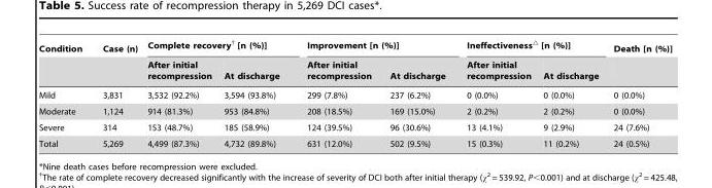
<table><thead><tr><td rowspan="2">Condition</td><td rowspan="2">Case (n)</td><td colspan="2">Complete recovery† [n (%)]</td><td colspan="2">Improvement [n (%)]</td><td colspan="2">Ineffectiveness△ [n (%)]</td><td rowspan="2">Death [n (%)]</td></tr><tr><td>After initial recompression</td><td>At discharge</td><td>After initial recompression</td><td>At discharge</td><td>After initial recompression</td><td>At discharge</td></tr></thead><tbody><tr><td>Mild</td><td>3,831</td><td>3,532 (92.2%)</td><td>3,594 (93.8%)</td><td>299 (7.8%)</td><td>237 (6.2%)</td><td>0 (0.0%)</td><td>0 (0.0%)</td><td>0 (0.0%)</td></tr><tr><td>Moderate</td><td>1,124</td><td>914 (81.3%)</td><td>953 (84.8%)</td><td>208 (18.5%)</td><td>169 (15.0%)</td><td>2 (0.2%)</td><td>2 (0.2%)</td><td>0 (0.0%)</td></tr><tr><td>Severe</td><td>314</td><td>153 (48.7%)</td><td>185 (58.9%)</td><td>124 (39.5%)</td><td>96 (30.6%)</td><td>13 (4.1%)</td><td>9 (2.9%)</td><td>24 (7.6%)</td></tr><tr><td>Total</td><td>5,269</td><td>4,499 (87.3%)</td><td>4,732 (89.8%)</td><td>631 (12.0%)</td><td>502 (9.5%)</td><td>15 (0.3%)</td><td>11 (0.2%)</td><td>24 (0.5%)</td></tr></tbody></table>